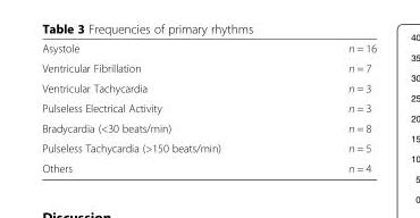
<table><tbody><tr><td>Asystole</td><td>n = 16</td></tr><tr><td>Ventricular Fibrillation</td><td>n = 7</td></tr><tr><td>Ventricular Tachycardia</td><td>n = 3</td></tr><tr><td>Pulseless Electrical Activity</td><td>n = 3</td></tr><tr><td>Bradycardia (&lt;30 beats/min)</td><td>n = 8</td></tr><tr><td>Pulseless Tachycardia (&gt;150 beats/min)</td><td>n = 5</td></tr><tr><td>Others</td><td>n = 4</td></tr></tbody></table>